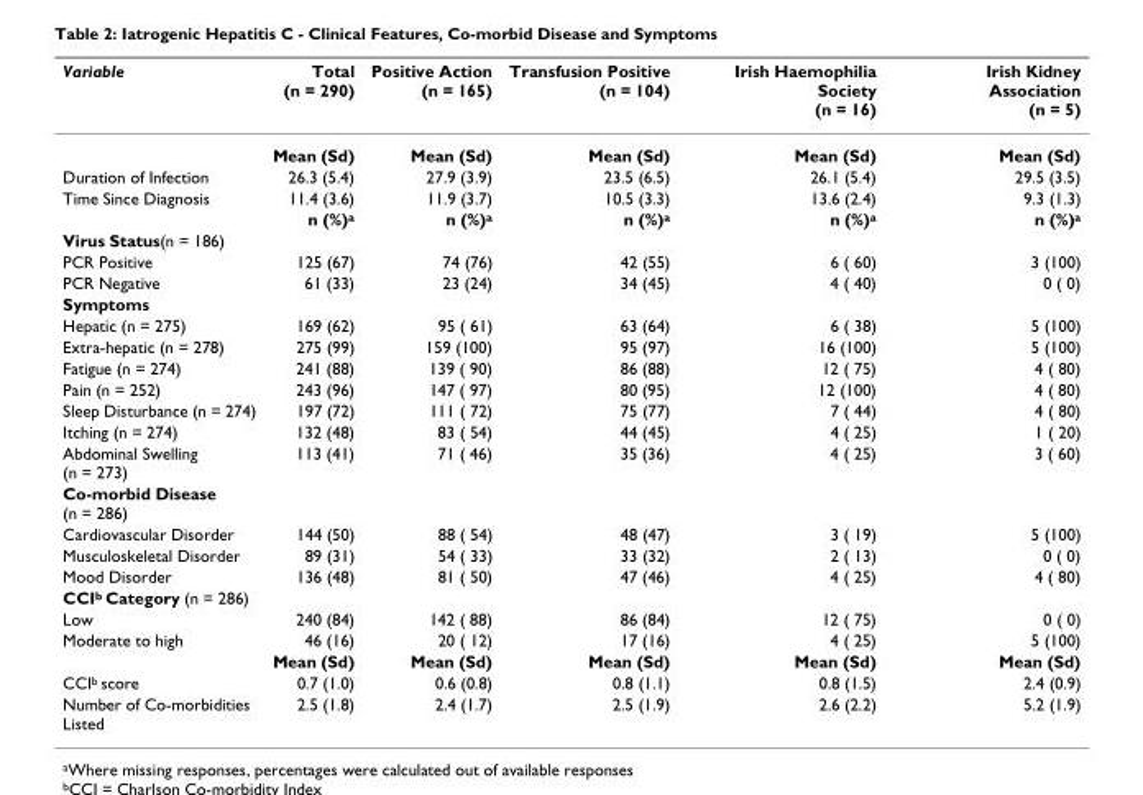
<table><thead><tr><td>Variable</td><td>Total (n = 290)</td><td>Positive Action (n = 165)</td><td>Transfusion Positive (n = 104)</td><td>Irish Haemophilia Society (n = 16)</td><td>Irish Kidney Association (n = 5)</td></tr></thead><tbody><tr><td></td><td>Mean (Sd)</td><td>Mean (Sd)</td><td>Mean (Sd)</td><td>Mean (Sd)</td><td>Mean (Sd)</td></tr><tr><td>Duration of Infection</td><td>26.3 (5.4)</td><td>27.9 (3.9)</td><td>23.5 (6.5)</td><td>26.1 (5.4)</td><td>29.5 (3.5)</td></tr><tr><td rowspan="2">Time Since Diagnosis</td><td>11.4 (3.6)</td><td>11.9 (3.7)</td><td>10.5 (3.3)</td><td>13.6 (2.4)</td><td>9.3 (1.3)</td></tr><tr><td>n (%)<sup>a</sup></td><td>n (%)<sup>a</sup></td><td>n (%)<sup>a</sup></td><td>n (%)<sup>a</sup></td><td>n (%)<sup>a</sup></td></tr><tr><td colspan="6">Virus Status(n = 186)</td></tr><tr><td>PCR Positive</td><td>125 (67)</td><td>74 (76)</td><td>42 (55)</td><td>6 ( 60)</td><td>3 (100)</td></tr><tr><td>PCR Negative</td><td>61 (33)</td><td>23 (24)</td><td>34 (45)</td><td>4 ( 40)</td><td>0 ( 0)</td></tr><tr><td colspan="6">Symptoms</td></tr><tr><td>Hepatic (n = 275)</td><td>169 (62)</td><td>95 ( 61)</td><td>63 (64)</td><td>6 ( 38)</td><td>5 (100)</td></tr><tr><td>Extra-hepatic (n = 278)</td><td>275 (99)</td><td>159 (100)</td><td>95 (97)</td><td>16 (100)</td><td>5 (100)</td></tr><tr><td>Fatigue (n = 274)</td><td>241 (88)</td><td>139 ( 90)</td><td>86 (88)</td><td>12 ( 75)</td><td>4 ( 80)</td></tr><tr><td>Pain (n = 252)</td><td>243 (96)</td><td>147 ( 97)</td><td>80 (95)</td><td>12 (100)</td><td>4 ( 80)</td></tr><tr><td>Sleep Disturbance (n = 274)</td><td>197 (72)</td><td>111 ( 72)</td><td>75 (77)</td><td>7 ( 44)</td><td>4 ( 80)</td></tr><tr><td>Itching (n = 274)</td><td>132 (48)</td><td>83 ( 54)</td><td>44 (45)</td><td>4 ( 25)</td><td>1 ( 20)</td></tr><tr><td>Abdominal Swelling (n = 273)</td><td>113 (41)</td><td>71 ( 46)</td><td>35 (36)</td><td>4 ( 25)</td><td>3 ( 60)</td></tr><tr><td colspan="6">Co-morbid Disease (n = 286)</td></tr><tr><td>Cardiovascular Disorder</td><td>144 (50)</td><td>88 ( 54)</td><td>48 (47)</td><td>3 ( 19)</td><td>5 (100)</td></tr><tr><td>Musculoskeletal Disorder</td><td>89 (31)</td><td>54 ( 33)</td><td>33 (32)</td><td>2 ( 13)</td><td>0 ( 0)</td></tr><tr><td>Mood Disorder</td><td>136 (48)</td><td>81 ( 50)</td><td>47 (46)</td><td>4 ( 25)</td><td>4 ( 80)</td></tr><tr><td colspan="6">CCI<sup>b</sup> Category (n = 286)</td></tr><tr><td>Low</td><td>240 (84)</td><td>142 ( 88)</td><td>86 (84)</td><td>12 ( 75)</td><td>0 ( 0)</td></tr><tr><td rowspan="2">Moderate to high</td><td>46 (16)</td><td>20 ( 12)</td><td>17 (16)</td><td>4 ( 25)</td><td>5 (100)</td></tr><tr><td>Mean (Sd)</td><td>Mean (Sd)</td><td>Mean (Sd)</td><td>Mean (Sd)</td><td>Mean (Sd)</td></tr><tr><td>CCI<sup>b</sup> score</td><td>0.7 (1.0)</td><td>0.6 (0.8)</td><td>0.8 (1.1)</td><td>0.8 (1.5)</td><td>2.4 (0.9)</td></tr><tr><td>Number of Co-morbidities Listed</td><td>2.5 (1.8)</td><td>2.4 (1.7)</td><td>2.5 (1.9)</td><td>2.6 (2.2)</td><td>5.2 (1.9)</td></tr></tbody></table>